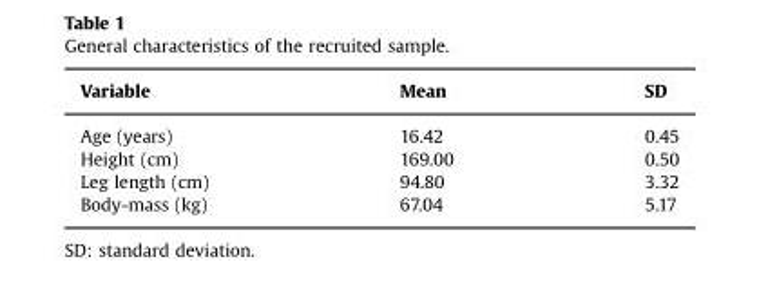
<table><thead><tr><td>Variable</td><td>Mean</td><td>SD</td></tr></thead><tbody><tr><td>Age (years)</td><td>16.42</td><td>0.45</td></tr><tr><td>Height (cm)</td><td>169.00</td><td>0.50</td></tr><tr><td>Leg length (cm)</td><td>94.80</td><td>3.32</td></tr><tr><td>Body-mass (kg)</td><td>67.04</td><td>5.17</td></tr></tbody></table>